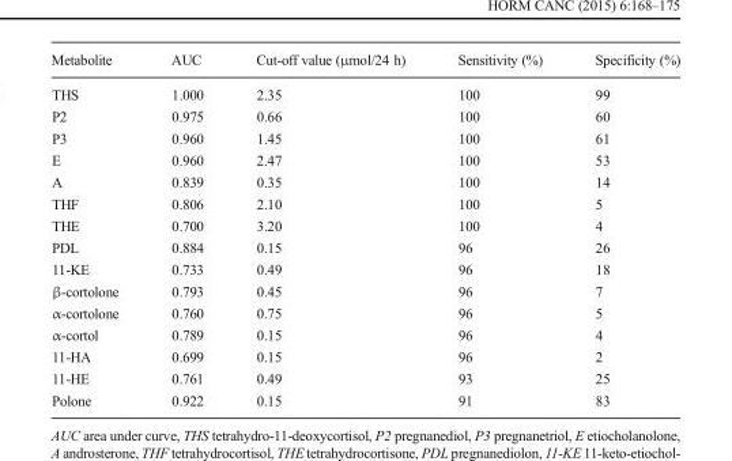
<table><thead><tr><td>Metabolite</td><td>AUC</td><td>Cut-off value (μmol/24 h)</td><td>Sensitivity (%)</td><td>Specificity (%)</td></tr></thead><tbody><tr><td>THS</td><td>1.000</td><td>2.35</td><td>100</td><td>99</td></tr><tr><td>P2</td><td>0.975</td><td>0.66</td><td>100</td><td>60</td></tr><tr><td>P3</td><td>0.960</td><td>1.45</td><td>100</td><td>61</td></tr><tr><td>E</td><td>0.960</td><td>2.47</td><td>100</td><td>53</td></tr><tr><td>A</td><td>0.839</td><td>0.35</td><td>100</td><td>14</td></tr><tr><td>THF</td><td>0.806</td><td>2.10</td><td>100</td><td>5</td></tr><tr><td>THE</td><td>0.700</td><td>3.20</td><td>100</td><td>4</td></tr><tr><td>PDL</td><td>0.884</td><td>0.15</td><td>96</td><td>26</td></tr><tr><td>11-KE</td><td>0.733</td><td>0.49</td><td>96</td><td>18</td></tr><tr><td>β-cortolone</td><td>0.793</td><td>0.45</td><td>96</td><td>7</td></tr><tr><td>α-cortolone</td><td>0.760</td><td>0.75</td><td>96</td><td>5</td></tr><tr><td>α-cortol</td><td>0.789</td><td>0.15</td><td>96</td><td>4</td></tr><tr><td>11-HA</td><td>0.699</td><td>0.15</td><td>96</td><td>2</td></tr><tr><td>11-HE</td><td>0.761</td><td>0.49</td><td>93</td><td>25</td></tr><tr><td>Polone</td><td>0.922</td><td>0.15</td><td>91</td><td>83</td></tr></tbody></table>